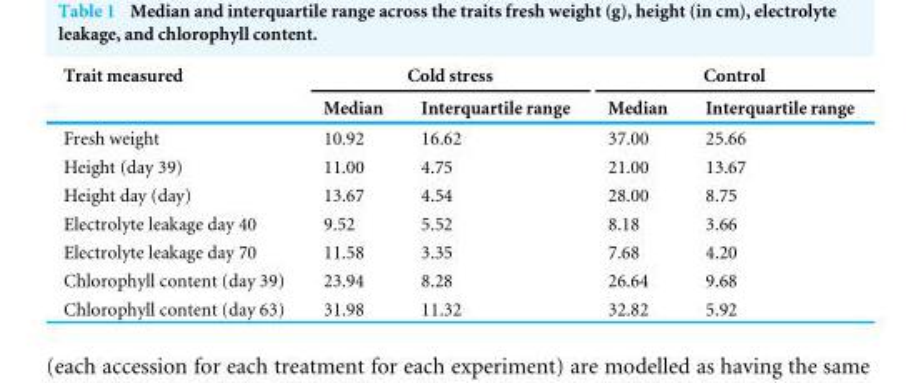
<table><thead><tr><td rowspan="2">Trait measured</td><td colspan="2">Cold stress</td><td colspan="2">Control</td></tr><tr><td>Median</td><td>Interquartile range</td><td>Median</td><td>Interquartile range</td></tr></thead><tbody><tr><td>Fresh weight</td><td>10.92</td><td>16.62</td><td>37.00</td><td>25.66</td></tr><tr><td>Height (day 39)</td><td>11.00</td><td>4.75</td><td>21.00</td><td>13.67</td></tr><tr><td>Height day (day)</td><td>13.67</td><td>4.54</td><td>28.00</td><td>8.75</td></tr><tr><td>Electrolyte leakage day 40</td><td>9.52</td><td>5.52</td><td>8.18</td><td>3.66</td></tr><tr><td>Electrolyte leakage day 70</td><td>11.58</td><td>3.35</td><td>7.68</td><td>4.20</td></tr><tr><td>Chlorophyll content (day 39)</td><td>23.94</td><td>8.28</td><td>26.64</td><td>9.68</td></tr><tr><td>Chlorophyll content (day 63)</td><td>31.98</td><td>11.32</td><td>32.82</td><td>5.92</td></tr></tbody></table>